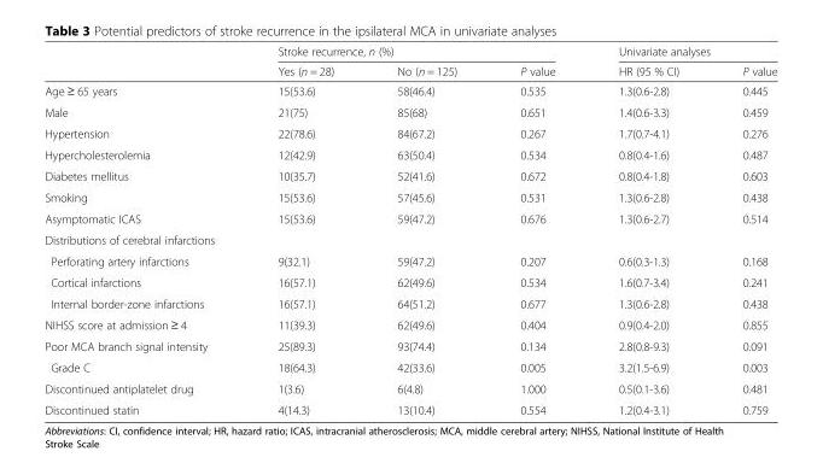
<table><thead><tr><td rowspan="2"></td><td colspan="3">Stroke recurrence, n (%)</td><td colspan="2">Univariate analyses</td></tr><tr><td>Yes (n = 28)</td><td>No (n = 125)</td><td>P value</td><td>HR (95 % CI)</td><td>P value</td></tr></thead><tbody><tr><td>Age ≥ 65 years</td><td>15(53.6)</td><td>58(46.4)</td><td>0.535</td><td>1.3(0.6-2.8)</td><td>0.445</td></tr><tr><td>Male</td><td>21(75)</td><td>85(68)</td><td>0.651</td><td>1.4(0.6-3.3)</td><td>0.459</td></tr><tr><td>Hypertension</td><td>22(78.6)</td><td>84(67.2)</td><td>0.267</td><td>1.7(0.7-4.1)</td><td>0.276</td></tr><tr><td>Hypercholesterolemia</td><td>12(42.9)</td><td>63(50.4)</td><td>0.534</td><td>0.8(0.4-1.6)</td><td>0.487</td></tr><tr><td>Diabetes mellitus</td><td>10(35.7)</td><td>52(41.6)</td><td>0.672</td><td>0.8(0.4-1.8)</td><td>0.603</td></tr><tr><td>Smoking</td><td>15(53.6)</td><td>57(45.6)</td><td>0.531</td><td>1.3(0.6-2.8)</td><td>0.438</td></tr><tr><td>Asymptomatic ICAS</td><td>15(53.6)</td><td>59(47.2)</td><td>0.676</td><td>1.3(0.6-2.7)</td><td>0.514</td></tr><tr><td colspan="6">Distributions of cerebral infarctions</td></tr><tr><td>Perforating artery infarctions</td><td>9(32.1)</td><td>59(47.2)</td><td>0.207</td><td>0.6(0.3-1.3)</td><td>0.168</td></tr><tr><td>Cortical infarctions</td><td>16(57.1)</td><td>62(49.6)</td><td>0.534</td><td>1.6(0.7-3.4)</td><td>0.241</td></tr><tr><td>Internal border-zone infarctions</td><td>16(57.1)</td><td>64(51.2)</td><td>0.677</td><td>1.3(0.6-2.8)</td><td>0.438</td></tr><tr><td>NIHSS score at admission ≥ 4</td><td>11(39.3)</td><td>62(49.6)</td><td>0.404</td><td>0.9(0.4-2.0)</td><td>0.855</td></tr><tr><td>Poor MCA branch signal intensity</td><td>25(89.3)</td><td>93(74.4)</td><td>0.134</td><td>2.8(0.8-9.3)</td><td>0.091</td></tr><tr><td>Grade C</td><td>18(64.3)</td><td>42(33.6)</td><td>0.005</td><td>3.2(1.5-6.9)</td><td>0.003</td></tr><tr><td>Discontinued antiplatelet drug</td><td>1(3.6)</td><td>6(4.8)</td><td>1.000</td><td>0.5(0.1-3.6)</td><td>0.481</td></tr><tr><td>Discontinued statin</td><td>4(14.3)</td><td>13(10.4)</td><td>0.554</td><td>1.2(0.4-3.1)</td><td>0.759</td></tr></tbody></table>